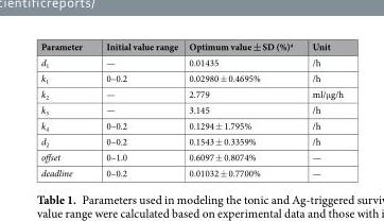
<table><thead><tr><td>Parameter</td><td>Initial value range</td><td>Optimum value ± SD (%)<sup>a</sup></td><td>Unit</td></tr></thead><tbody><tr><td>d<sub>1</sub></td><td>—</td><td>0.01435</td><td>/h</td></tr><tr><td>k<sub>1</sub></td><td>0–0.2</td><td>0.02980 ± 0.4695%</td><td>/h</td></tr><tr><td>k<sub>2</sub></td><td>—</td><td>2.779</td><td>ml/μg/h</td></tr><tr><td>k<sub>3</sub></td><td>—</td><td>3.145</td><td>/h</td></tr><tr><td>k<sub>4</sub></td><td>0–0.2</td><td>0.1294 ± 1.795%</td><td>/h</td></tr><tr><td>d<sub>2</sub></td><td>0–0.2</td><td>0.1543 ± 0.3359%</td><td>/h</td></tr><tr><td>offset</td><td>0–1.0</td><td>0.6097 ± 0.8074%</td><td>—</td></tr><tr><td>deadline</td><td>0–0.2</td><td>0.01032 ± 0.7700%</td><td>—</td></tr></tbody></table>